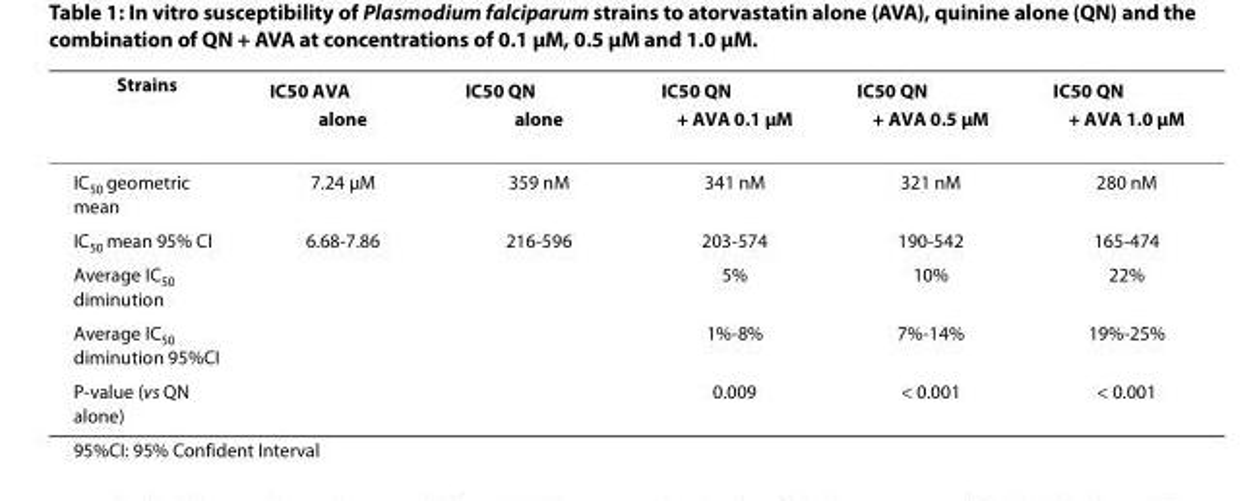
<table><thead><tr><td>Strains</td><td>IC<sub>50</sub> AVA alone</td><td>IC<sub>50</sub> QN alone</td><td>IC<sub>50</sub> QN + AVA 0.1 μM</td><td>IC<sub>50</sub> QN + AVA 0.5 μM</td><td>IC<sub>50</sub> QN + AVA 1.0 μM</td></tr></thead><tbody><tr><td>IC<sub>50</sub> geometric mean</td><td>7.24 μM</td><td>359 nM</td><td>341 nM</td><td>321 nM</td><td>280 nM</td></tr><tr><td>IC<sub>50</sub> mean 95% CI</td><td>6.68-7.86</td><td>216-596</td><td>203-574</td><td>190-542</td><td>165-474</td></tr><tr><td>Average IC<sub>50</sub> diminution</td><td></td><td></td><td>5%</td><td>10%</td><td>22%</td></tr><tr><td>Average IC<sub>50</sub> diminution 95%CI</td><td></td><td></td><td>1%-8%</td><td>7%-14%</td><td>19%-25%</td></tr><tr><td>P-value (vs QN alone)</td><td></td><td></td><td>0.009</td><td>&lt; 0.001</td><td>&lt; 0.001</td></tr></tbody></table>